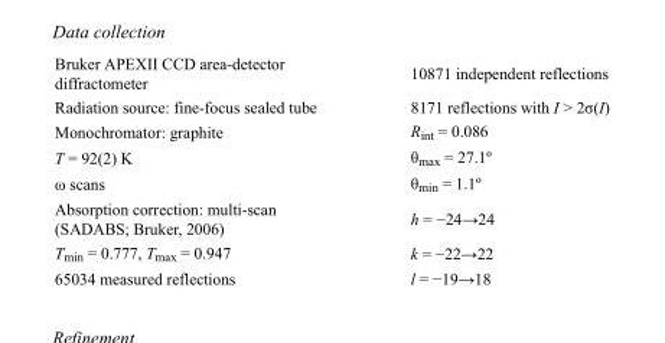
<table><tbody><tr><td>Bruker APEXII CCD area-detector diffractometer</td><td>10871 independent reflections</td></tr><tr><td>Radiation source: fine-focus sealed tube</td><td>8171 reflections with I &gt; 2σ(I)</td></tr><tr><td>Monochromator: graphite</td><td>R<sub>int</sub> = 0.086</td></tr><tr><td>T = 92(2) K</td><td>θ<sub>max</sub> = 27.1º</td></tr><tr><td>ω scans</td><td>θ<sub>min</sub> = 1.1º</td></tr><tr><td>Absorption correction: multi-scan (SADABS; Bruker, 2006)</td><td>h = −24→24</td></tr><tr><td>T<sub>min</sub> = 0.777, T<sub>max</sub> = 0.947</td><td>k = −22→22</td></tr><tr><td>65034 measured reflections</td><td>l = −19→18</td></tr></tbody></table>